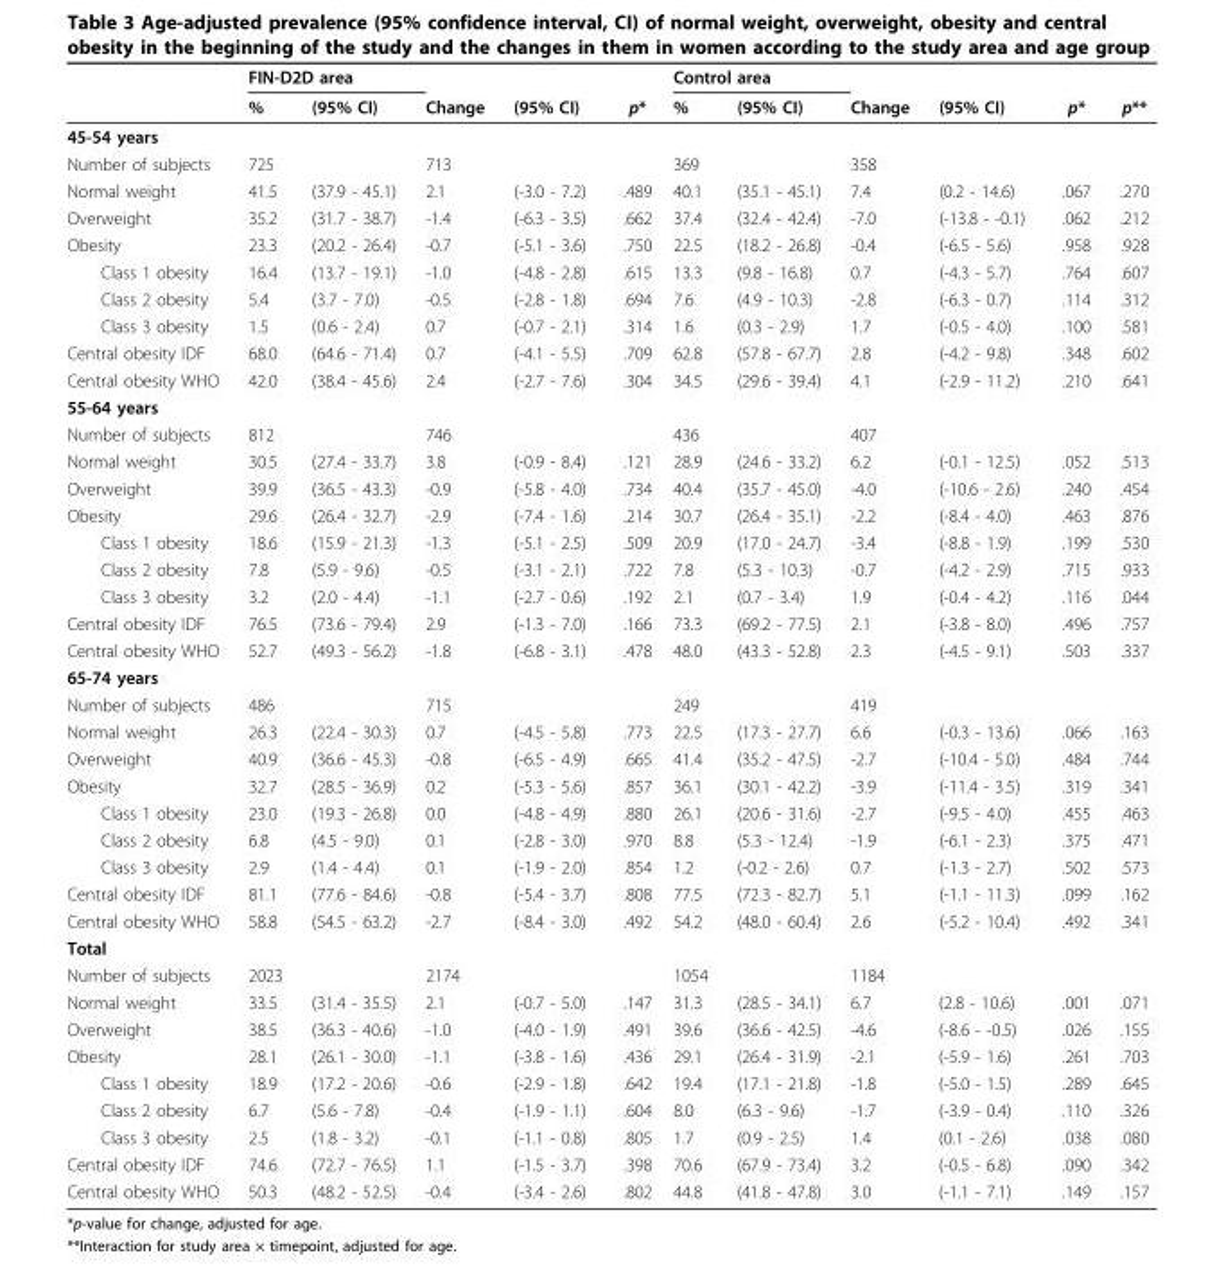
<table><thead><tr><td rowspan="2"></td><td colspan="2">FIN-D2D area</td><td rowspan="2">Change</td><td rowspan="2">(95% CI)</td><td rowspan="2">p*</td><td colspan="2">Control area</td><td rowspan="2">Change</td><td rowspan="2">(95% CI)</td><td rowspan="2">p*</td><td rowspan="2">p**</td></tr><tr><td>%</td><td>(95% CI)</td><td>%</td><td>(95% CI)</td></tr></thead><tbody><tr><td colspan="12">45-54 years</td></tr><tr><td>Number of subjects</td><td>725</td><td></td><td>713</td><td></td><td></td><td>369</td><td></td><td>358</td><td></td><td></td><td></td></tr><tr><td>Normal weight</td><td>41.5</td><td>(37.9 - 45.1)</td><td>2.1</td><td>(-3.0 - 7.2)</td><td>.489</td><td>40.1</td><td>(35.1 - 45.1)</td><td>7.4</td><td>(0.2 - 14.6)</td><td>.067</td><td>.270</td></tr><tr><td>Overweight</td><td>35.2</td><td>(31.7 - 38.7)</td><td>-1.4</td><td>(-6.3 - 3.5)</td><td>.662</td><td>37.4</td><td>(32.4 - 42.4)</td><td>-7.0</td><td>(-13.8 - -0.1)</td><td>.062</td><td>.212</td></tr><tr><td>Obesity</td><td>23.3</td><td>(20.2 - 26.4)</td><td>-0.7</td><td>(-5.1 - 3.6)</td><td>.750</td><td>22.5</td><td>(18.2 - 26.8)</td><td>-0.4</td><td>(-6.5 - 5.6)</td><td>.958</td><td>.928</td></tr><tr><td>Class 1 obesity</td><td>16.4</td><td>(13.7 - 19.1)</td><td>-1.0</td><td>(-4.8 - 2.8)</td><td>.615</td><td>13.3</td><td>(9.8 - 16.8)</td><td>0.7</td><td>(-4.3 - 5.7)</td><td>.764</td><td>.607</td></tr><tr><td>Class 2 obesity</td><td>5.4</td><td>(3.7 - 7.0)</td><td>-0.5</td><td>(-2.8 - 1.8)</td><td>.694</td><td>7.6</td><td>(4.9 - 10.3)</td><td>-2.8</td><td>(-6.3 - 0.7)</td><td>.114</td><td>.312</td></tr><tr><td>Class 3 obesity</td><td>1.5</td><td>(0.6 - 2.4)</td><td>0.7</td><td>(-0.7 - 2.1)</td><td>.314</td><td>1.6</td><td>(0.3 - 2.9)</td><td>1.7</td><td>(-0.5 - 4.0)</td><td>.100</td><td>.581</td></tr><tr><td>Central obesity IDF</td><td>68.0</td><td>(64.6 - 71.4)</td><td>0.7</td><td>(-4.1 - 5.5)</td><td>.709</td><td>62.8</td><td>(57.8 - 67.7)</td><td>2.8</td><td>(-4.2 - 9.8)</td><td>.348</td><td>.602</td></tr><tr><td>Central obesity WHO</td><td>42.0</td><td>(38.4 - 45.6)</td><td>2.4</td><td>(-2.7 - 7.6)</td><td>.304</td><td>34.5</td><td>(29.6 - 39.4)</td><td>4.1</td><td>(-2.9 - 11.2)</td><td>.210</td><td>.641</td></tr><tr><td colspan="12">55-64 years</td></tr><tr><td>Number of subjects</td><td>812</td><td></td><td>746</td><td></td><td></td><td>436</td><td></td><td>407</td><td></td><td></td><td></td></tr><tr><td>Normal weight</td><td>30.5</td><td>(27.4 - 33.7)</td><td>3.8</td><td>(-0.9 - 8.4)</td><td>.121</td><td>28.9</td><td>(24.6 - 33.2)</td><td>6.2</td><td>(-0.1 - 12.5)</td><td>.052</td><td>.513</td></tr><tr><td>Overweight</td><td>39.9</td><td>(36.5 - 43.3)</td><td>-0.9</td><td>(-5.8 - 4.0)</td><td>.734</td><td>40.4</td><td>(35.7 - 45.0)</td><td>-4.0</td><td>(-10.6 - 2.6)</td><td>.240</td><td>.454</td></tr><tr><td>Obesity</td><td>29.6</td><td>(26.4 - 32.7)</td><td>-2.9</td><td>(-7.4 - 1.6)</td><td>.214</td><td>30.7</td><td>(26.4 - 35.1)</td><td>-2.2</td><td>(-8.4 - 4.0)</td><td>.463</td><td>.876</td></tr><tr><td>Class 1 obesity</td><td>18.6</td><td>(15.9 - 21.3)</td><td>-1.3</td><td>(-5.1 - 2.5)</td><td>.509</td><td>20.9</td><td>(17.0 - 24.7)</td><td>-3.4</td><td>(-8.8 - 1.9)</td><td>.199</td><td>.530</td></tr><tr><td>Class 2 obesity</td><td>7.8</td><td>(5.9 - 9.6)</td><td>-0.5</td><td>(-3.1 - 2.1)</td><td>.722</td><td>7.8</td><td>(5.3 - 10.3)</td><td>-0.7</td><td>(-4.2 - 2.9)</td><td>.715</td><td>.933</td></tr><tr><td>Class 3 obesity</td><td>3.2</td><td>(2.0 - 4.4)</td><td>-1.1</td><td>(-2.7 - 0.6)</td><td>.192</td><td>2.1</td><td>(0.7 - 3.4)</td><td>1.9</td><td>(-0.4 - 4.2)</td><td>.116</td><td>.044</td></tr><tr><td>Central obesity IDF</td><td>76.5</td><td>(73.6 - 79.4)</td><td>2.9</td><td>(-1.3 - 7.0)</td><td>.166</td><td>73.3</td><td>(69.2 - 77.5)</td><td>2.1</td><td>(-3.8 - 8.0)</td><td>.496</td><td>.757</td></tr><tr><td>Central obesity WHO</td><td>52.7</td><td>(49.3 - 56.2)</td><td>-1.8</td><td>(-6.8 - 3.1)</td><td>.478</td><td>48.0</td><td>(43.3 - 52.8)</td><td>2.3</td><td>(-4.5 - 9.1)</td><td>.503</td><td>.337</td></tr><tr><td colspan="12">65-74 years</td></tr><tr><td>Number of subjects</td><td>486</td><td></td><td>715</td><td></td><td></td><td>249</td><td></td><td>419</td><td></td><td></td><td></td></tr><tr><td>Normal weight</td><td>26.3</td><td>(22.4 - 30.3)</td><td>0.7</td><td>(-4.5 - 5.8)</td><td>.773</td><td>22.5</td><td>(17.3 - 27.7)</td><td>6.6</td><td>(-0.3 - 13.6)</td><td>.066</td><td>.163</td></tr><tr><td>Overweight</td><td>40.9</td><td>(36.6 - 45.3)</td><td>-0.8</td><td>(-6.5 - 4.9)</td><td>.665</td><td>41.4</td><td>(35.2 - 47.5)</td><td>-2.7</td><td>(-10.4 - 5.0)</td><td>.484</td><td>.744</td></tr><tr><td>Obesity</td><td>32.7</td><td>(28.5 - 36.9)</td><td>0.2</td><td>(-5.3 - 5.6)</td><td>.857</td><td>36.1</td><td>(30.1 - 42.2)</td><td>-3.9</td><td>(-11.4 - 3.5)</td><td>.319</td><td>.341</td></tr><tr><td>Class 1 obesity</td><td>23.0</td><td>(19.3 - 26.8)</td><td>0.0</td><td>(-4.8 - 4.9)</td><td>.880</td><td>26.1</td><td>(20.6 - 31.6)</td><td>-2.7</td><td>(-9.5 - 4.0)</td><td>.455</td><td>.463</td></tr><tr><td>Class 2 obesity</td><td>6.8</td><td>(4.5 - 9.0)</td><td>0.1</td><td>(-2.8 - 3.0)</td><td>.970</td><td>8.8</td><td>(5.3 - 12.4)</td><td>-1.9</td><td>(-6.1 - 2.3)</td><td>.375</td><td>.471</td></tr><tr><td>Class 3 obesity</td><td>2.9</td><td>(1.4 - 4.4)</td><td>0.1</td><td>(-1.9 - 2.0)</td><td>.854</td><td>1.2</td><td>(-0.2 - 2.6)</td><td>0.7</td><td>(-1.3 - 2.7)</td><td>.502</td><td>.573</td></tr><tr><td>Central obesity IDF</td><td>81.1</td><td>(77.6 - 84.6)</td><td>-0.8</td><td>(-5.4 - 3.7)</td><td>.808</td><td>77.5</td><td>(72.3 - 82.7)</td><td>5.1</td><td>(-1.1 - 11.3)</td><td>.099</td><td>.162</td></tr><tr><td>Central obesity WHO</td><td>58.8</td><td>(54.5 - 63.2)</td><td>-2.7</td><td>(-8.4 - 3.0)</td><td>.492</td><td>54.2</td><td>(48.0 - 60.4)</td><td>2.6</td><td>(-5.2 - 10.4)</td><td>.492</td><td>.341</td></tr><tr><td colspan="12">Total</td></tr><tr><td>Number of subjects</td><td>2023</td><td></td><td>2174</td><td></td><td></td><td>1054</td><td></td><td>1184</td><td></td><td></td><td></td></tr><tr><td>Normal weight</td><td>33.5</td><td>(31.4 - 35.5)</td><td>2.1</td><td>(-0.7 - 5.0)</td><td>.147</td><td>31.3</td><td>(28.5 - 34.1)</td><td>6.7</td><td>(2.8 - 10.6)</td><td>.001</td><td>.071</td></tr><tr><td>Overweight</td><td>38.5</td><td>(36.3 - 40.6)</td><td>-1.0</td><td>(-4.0 - 1.9)</td><td>.491</td><td>39.6</td><td>(36.6 - 42.5)</td><td>-4.6</td><td>(-8.6 - -0.5)</td><td>.026</td><td>.155</td></tr><tr><td>Obesity</td><td>28.1</td><td>(26.1 - 30.0)</td><td>-1.1</td><td>(-3.8 - 1.6)</td><td>.436</td><td>29.1</td><td>(26.4 - 31.9)</td><td>-2.1</td><td>(-5.9 - 1.6)</td><td>.261</td><td>.703</td></tr><tr><td>Class 1 obesity</td><td>18.9</td><td>(17.2 - 20.6)</td><td>-0.6</td><td>(-2.9 - 1.8)</td><td>.642</td><td>19.4</td><td>(17.1 - 21.8)</td><td>-1.8</td><td>(-5.0 - 1.5)</td><td>.289</td><td>.645</td></tr><tr><td>Class 2 obesity</td><td>6.7</td><td>(5.6 - 7.8)</td><td>-0.4</td><td>(-1.9 - 1.1)</td><td>.604</td><td>8.0</td><td>(6.3 - 9.6)</td><td>-1.7</td><td>(-3.9 - 0.4)</td><td>.110</td><td>.326</td></tr><tr><td>Class 3 obesity</td><td>2.5</td><td>(1.8 - 3.2)</td><td>-0.1</td><td>(-1.1 - 0.8)</td><td>.805</td><td>1.7</td><td>(0.9 - 2.5)</td><td>1.4</td><td>(0.1 - 2.6)</td><td>.038</td><td>.080</td></tr><tr><td>Central obesity IDF</td><td>74.6</td><td>(72.7 - 76.5)</td><td>1.1</td><td>(-1.5 - 3.7)</td><td>.398</td><td>70.6</td><td>(67.9 - 73.4)</td><td>3.2</td><td>(-0.5 - 6.8)</td><td>.090</td><td>.342</td></tr><tr><td>Central obesity WHO</td><td>50.3</td><td>(48.2 - 52.5)</td><td>-0.4</td><td>(-3.4 - 2.6)</td><td>.802</td><td>44.8</td><td>(41.8 - 47.8)</td><td>3.0</td><td>(-1.1 - 7.1)</td><td>.149</td><td>.157</td></tr></tbody></table>